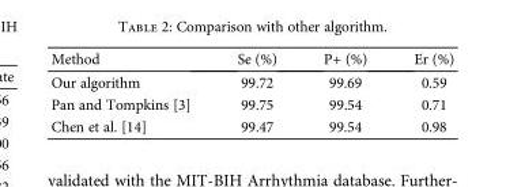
<table><thead><tr><td>Method</td><td>Se (%)</td><td>P+ (%)</td><td>Er (%)</td></tr></thead><tbody><tr><td>Our algorithm</td><td>99.72</td><td>99.69</td><td>0.59</td></tr><tr><td>Pan and Tompkins [3]</td><td>99.75</td><td>99.54</td><td>0.71</td></tr><tr><td>Chen et al. [14]</td><td>99.47</td><td>99.54</td><td>0.98</td></tr></tbody></table>